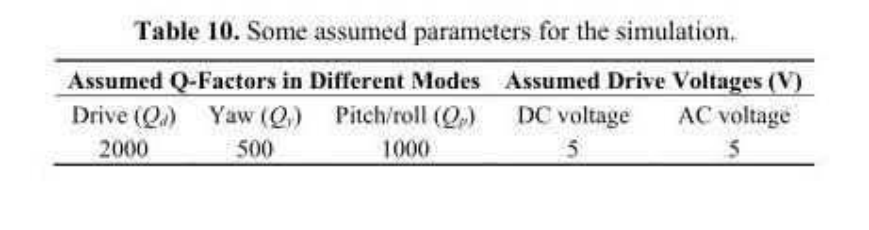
<table><thead><tr><td colspan="3">Assumed Q-Factors in Different Modes</td><td colspan="2">Assumed Drive Voltages (V)</td></tr><tr><td>Drive (Q<sub>d</sub>)</td><td>Yaw (Q<sub>y</sub>)</td><td>Pitch/roll (Q<sub>p</sub>)</td><td>DC voltage</td><td>AC voltage</td></tr></thead><tbody><tr><td>2000</td><td>500</td><td>1000</td><td>5</td><td>5</td></tr></tbody></table>